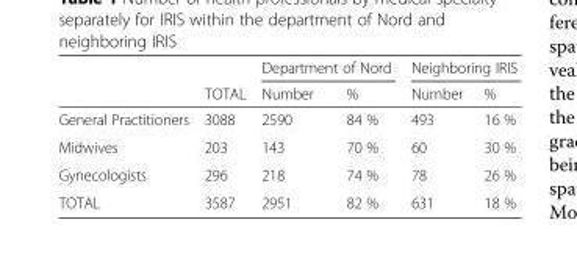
<table><thead><tr><td rowspan="2"></td><td rowspan="2">TOTAL</td><td colspan="2">Department of Nord</td><td colspan="2">Neighboring IRIS</td></tr><tr><td>Number</td><td>%</td><td>Number</td><td>%</td></tr></thead><tbody><tr><td>General Practitioners</td><td>3088</td><td>2590</td><td>84 %</td><td>493</td><td>16 %</td></tr><tr><td>Midwives</td><td>203</td><td>143</td><td>70 %</td><td>60</td><td>30 %</td></tr><tr><td>Gynecologists</td><td>296</td><td>218</td><td>74 %</td><td>78</td><td>26 %</td></tr><tr><td>TOTAL</td><td>3587</td><td>2951</td><td>82 %</td><td>631</td><td>18 %</td></tr></tbody></table>